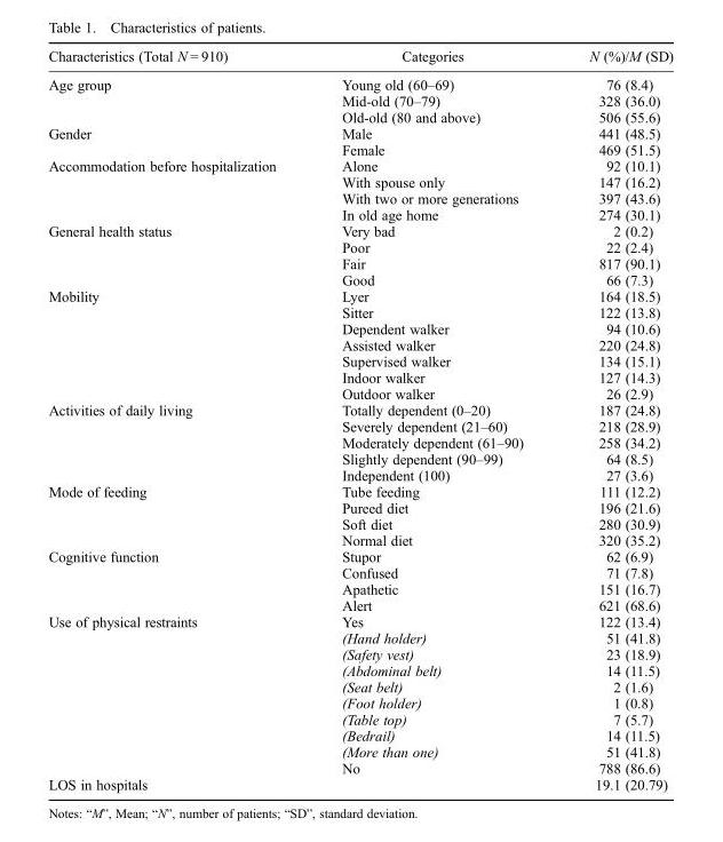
<table><thead><tr><td>Characteristics (Total N = 910)</td><td>Categories</td><td>N (%)/M (SD)</td></tr></thead><tbody><tr><td rowspan="3">Age group</td><td>Young old (60–69)</td><td>76 (8.4)</td></tr><tr><td>Mid-old (70–79)</td><td>328 (36.0)</td></tr><tr><td>Old-old (80 and above)</td><td>506 (55.6)</td></tr><tr><td rowspan="2">Gender</td><td>Male</td><td>441 (48.5)</td></tr><tr><td>Female</td><td>469 (51.5)</td></tr><tr><td rowspan="4">Accommodation before hospitalization</td><td>Alone</td><td>92 (10.1)</td></tr><tr><td>With spouse only</td><td>147 (16.2)</td></tr><tr><td>With two or more generations</td><td>397 (43.6)</td></tr><tr><td>In old age home</td><td>274 (30.1)</td></tr><tr><td rowspan="4">General health status</td><td>Very bad</td><td>2 (0.2)</td></tr><tr><td>Poor</td><td>22 (2.4)</td></tr><tr><td>Fair</td><td>817 (90.1)</td></tr><tr><td>Good</td><td>66 (7.3)</td></tr><tr><td rowspan="7">Mobility</td><td>Lyer</td><td>164 (18.5)</td></tr><tr><td>Sitter</td><td>122 (13.8)</td></tr><tr><td>Dependent walker</td><td>94 (10.6)</td></tr><tr><td>Assisted walker</td><td>220 (24.8)</td></tr><tr><td>Supervised walker</td><td>134 (15.1)</td></tr><tr><td>Indoor walker</td><td>127 (14.3)</td></tr><tr><td>Outdoor walker</td><td>26 (2.9)</td></tr><tr><td rowspan="5">Activities of daily living</td><td>Totally dependent (0–20)</td><td>187 (24.8)</td></tr><tr><td>Severely dependent (21–60)</td><td>218 (28.9)</td></tr><tr><td>Moderately dependent (61–90)</td><td>258 (34.2)</td></tr><tr><td>Slightly dependent (90–99)</td><td>64 (8.5)</td></tr><tr><td>Independent (100)</td><td>27 (3.6)</td></tr><tr><td rowspan="4">Mode of feeding</td><td>Tube feeding</td><td>111 (12.2)</td></tr><tr><td>Pureed diet</td><td>196 (21.6)</td></tr><tr><td>Soft diet</td><td>280 (30.9)</td></tr><tr><td>Normal diet</td><td>320 (35.2)</td></tr><tr><td rowspan="4">Cognitive function</td><td>Stupor</td><td>62 (6.9)</td></tr><tr><td>Confused</td><td>71 (7.8)</td></tr><tr><td>Apathetic</td><td>151 (16.7)</td></tr><tr><td>Alert</td><td>621 (68.6)</td></tr><tr><td rowspan="10">Use of physical restraints</td><td>Yes</td><td>122 (13.4)</td></tr><tr><td>(Hand holder)</td><td>51 (41.8)</td></tr><tr><td>(Safety vest)</td><td>23 (18.9)</td></tr><tr><td>(Abdominal belt)</td><td>14 (11.5)</td></tr><tr><td>(Seat belt)</td><td>2 (1.6)</td></tr><tr><td>(Foot holder)</td><td>1 (0.8)</td></tr><tr><td>(Table top)</td><td>7 (5.7)</td></tr><tr><td>(Bedrail)</td><td>14 (11.5)</td></tr><tr><td>(More than one)</td><td>51 (41.8)</td></tr><tr><td>No</td><td>788 (86.6)</td></tr><tr><td>LOS in hospitals</td><td></td><td>19.1 (20.79)</td></tr></tbody></table>